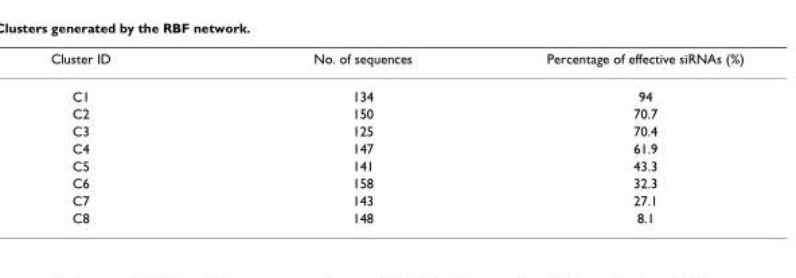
<table><thead><tr><td>Cluster ID</td><td>No. of sequences</td><td>Percentage of effective siRNAs (%)</td></tr></thead><tbody><tr><td>C1</td><td>134</td><td>94</td></tr><tr><td>C2</td><td>150</td><td>70.7</td></tr><tr><td>C3</td><td>125</td><td>70.4</td></tr><tr><td>C4</td><td>147</td><td>61.9</td></tr><tr><td>C5</td><td>141</td><td>43.3</td></tr><tr><td>C6</td><td>158</td><td>32.3</td></tr><tr><td>C7</td><td>143</td><td>27.1</td></tr><tr><td>C8</td><td>148</td><td>8.1</td></tr></tbody></table>